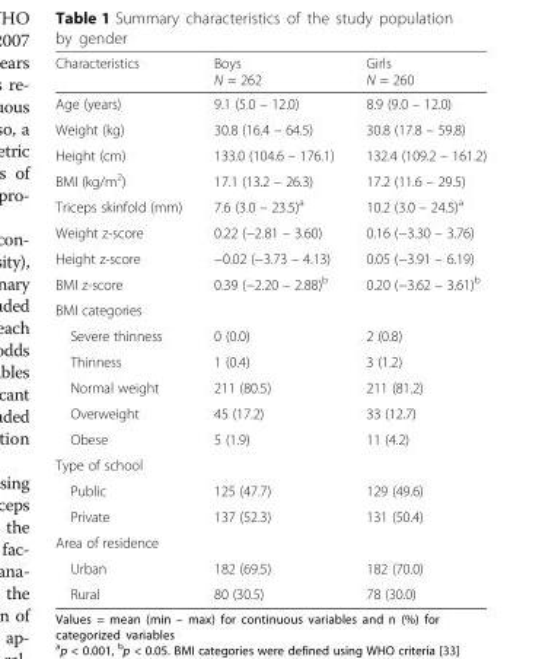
<table><thead><tr><td>Characteristics</td><td>Boys N = 262</td><td>Girls N = 260</td></tr></thead><tbody><tr><td>Age (years)</td><td>9.1 (5.0 – 12.0)</td><td>8.9 (9.0 – 12.0)</td></tr><tr><td>Weight (kg)</td><td>30.8 (16.4 – 64.5)</td><td>30.8 (17.8 – 59.8)</td></tr><tr><td>Height (cm)</td><td>133.0 (104.6 – 176.1)</td><td>132.4 (109.2 – 161.2)</td></tr><tr><td>BMI (kg/m<sup>2</sup>)</td><td>17.1 (13.2 – 26.3)</td><td>17.2 (11.6 – 29.5)</td></tr><tr><td>Triceps skinfold (mm)</td><td>7.6 (3.0 – 23.5)<sup>a</sup></td><td>10.2 (3.0 – 24.5)<sup>a</sup></td></tr><tr><td>Weight z-score</td><td>0.22 (−2.81 – 3.60)</td><td>0.16 (−3.30 – 3.76)</td></tr><tr><td>Height z-score</td><td>−0.02 (−3.73 – 4.13)</td><td>0.05 (−3.91 – 6.19)</td></tr><tr><td>BMI z-score</td><td>0.39 (−2.20 – 2.88)<sup>b</sup></td><td>0.20 (−3.62 – 3.61)<sup>b</sup></td></tr><tr><td colspan="3">BMI categories</td></tr><tr><td>Severe thinness</td><td>0 (0.0)</td><td>2 (0.8)</td></tr><tr><td>Thinness</td><td>1 (0.4)</td><td>3 (1.2)</td></tr><tr><td>Normal weight</td><td>211 (80.5)</td><td>211 (81.2)</td></tr><tr><td>Overweight</td><td>45 (17.2)</td><td>33 (12.7)</td></tr><tr><td>Obese</td><td>5 (1.9)</td><td>11 (4.2)</td></tr><tr><td colspan="3">Type of school</td></tr><tr><td>Public</td><td>125 (47.7)</td><td>129 (49.6)</td></tr><tr><td>Private</td><td>137 (52.3)</td><td>131 (50.4)</td></tr><tr><td colspan="3">Area of residence</td></tr><tr><td>Urban</td><td>182 (69.5)</td><td>182 (70.0)</td></tr><tr><td>Rural</td><td>80 (30.5)</td><td>78 (30.0)</td></tr></tbody></table>